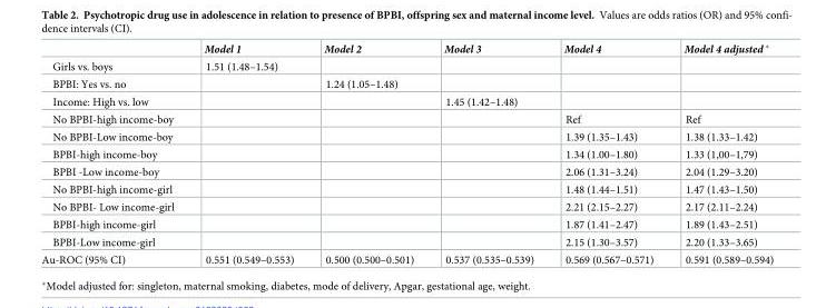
<table><thead><tr><td></td><td>Model 1</td><td>Model 2</td><td>Model 3</td><td>Model 4</td><td>Model 4 adjusted *</td></tr></thead><tbody><tr><td>Girls vs. boys</td><td>1.51 (1.48–1.54)</td><td></td><td></td><td></td><td></td></tr><tr><td>BPBI: Yes vs. no</td><td></td><td>1.24 (1.05–1.48)</td><td></td><td></td><td></td></tr><tr><td>Income: High vs. low</td><td></td><td></td><td>1.45 (1.42–1.48)</td><td></td><td></td></tr><tr><td>No BPBI-high income-boy</td><td></td><td></td><td></td><td>Ref</td><td>Ref</td></tr><tr><td>No BPBI-Low income-boy</td><td></td><td></td><td></td><td>1.39 (1.35–1.43)</td><td>1.38 (1.33–1.42)</td></tr><tr><td>BPBI-high income-boy</td><td></td><td></td><td></td><td>1.34 (1.00–1.80)</td><td>1.33 (1,00–1,79)</td></tr><tr><td>BPBI -Low income-boy</td><td></td><td></td><td></td><td>2.06 (1.31–3.24)</td><td>2.04 (1.29–3.20)</td></tr><tr><td>No BPBI-high income-girl</td><td></td><td></td><td></td><td>1.48 (1.44–1.51)</td><td>1.47 (1.43–1.50)</td></tr><tr><td>No BPBI- Low income-girl</td><td></td><td></td><td></td><td>2.21 (2.15–2.27)</td><td>2.17 (2.11–2.24)</td></tr><tr><td>BPBI-high income-girl</td><td></td><td></td><td></td><td>1.87 (1.41–2.47)</td><td>1.89 (1.43–2.51)</td></tr><tr><td>BPBI-Low income-girl</td><td></td><td></td><td></td><td>2.15 (1.30–3.57)</td><td>2.20 (1.33–3.65)</td></tr><tr><td>Au-ROC (95% CI)</td><td>0.551 (0.549–0.553)</td><td>0.500 (0.500–0.501)</td><td>0.537 (0.535–0.539)</td><td>0.569 (0.567–0.571)</td><td>0.591 (0.589–0.594)</td></tr></tbody></table>